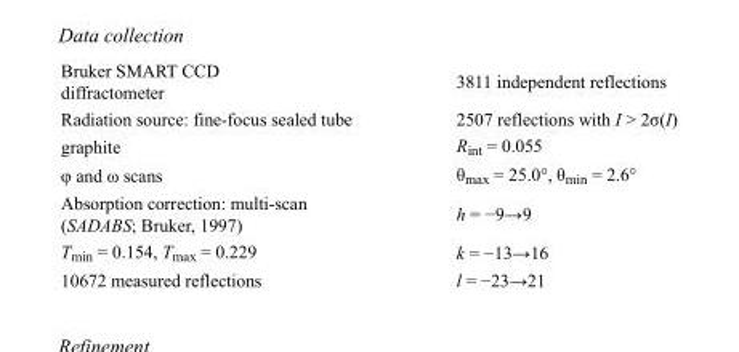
<table><tbody><tr><td>Bruker SMART CCD diffractometer</td><td>3811 independent reflections</td></tr><tr><td>Radiation source: fine-focus sealed tube</td><td>2507 reflections with I &gt; 2σ(I)</td></tr><tr><td>graphite</td><td>R<sub>int</sub> = 0.055</td></tr><tr><td>φ and ω scans</td><td>θ<sub>max</sub> = 25.0°, θ<sub>min</sub> = 2.6°</td></tr><tr><td>Absorption correction: multi-scan (SADABS; Bruker, 1997)</td><td>h = −9→9</td></tr><tr><td>T<sub>min</sub> = 0.154, T<sub>max</sub> = 0.229</td><td>k = −13→16</td></tr><tr><td>10672 measured reflections</td><td>l = −23→21</td></tr></tbody></table>